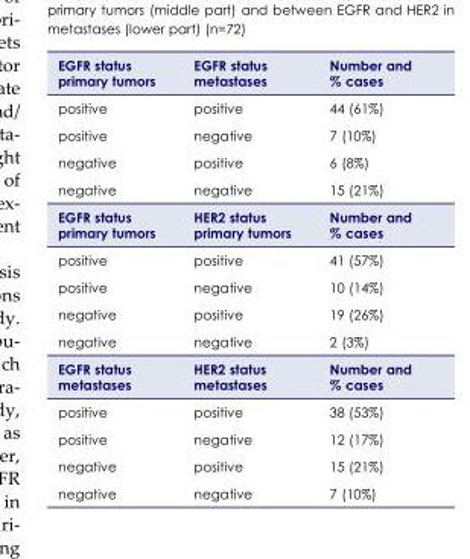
<table><tbody><tr><td>EGFR status primary tumors</td><td>EGFR status metastases</td><td>Number and % cases</td></tr><tr><td>positive</td><td>positive</td><td>44 (61%)</td></tr><tr><td>positive</td><td>negative</td><td>7 (10%)</td></tr><tr><td>negative</td><td>positive</td><td>6 (8%)</td></tr><tr><td>negative</td><td>negative</td><td>15 (21%)</td></tr><tr><td>EGFR status primary tumors</td><td>HER2 status primary tumors</td><td>Number and % cases</td></tr><tr><td>positive</td><td>positive</td><td>41 (57%)</td></tr><tr><td>positive</td><td>negative</td><td>10 (14%)</td></tr><tr><td>negative</td><td>positive</td><td>19 (26%)</td></tr><tr><td>negative</td><td>negative</td><td>2 (3%)</td></tr><tr><td>EGFR status metastases</td><td>HER2 status metastases</td><td>Number and % cases</td></tr><tr><td>positive</td><td>positive</td><td>38 (53%)</td></tr><tr><td>positive</td><td>negative</td><td>12 (17%)</td></tr><tr><td>negative</td><td>positive</td><td>15 (21%)</td></tr><tr><td>negative</td><td>negative</td><td>7 (10%)</td></tr></tbody></table>